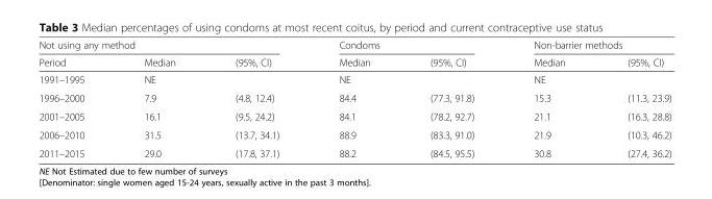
<table><thead><tr><td colspan="3">Not using any method</td><td colspan="2">Condoms</td><td colspan="2">Non-barrier methods</td></tr><tr><td>Period</td><td>Median</td><td>(95%, CI)</td><td>Median</td><td>(95%, CI)</td><td>Median</td><td>(95%, CI)</td></tr></thead><tbody><tr><td>1991–1995</td><td>NE</td><td></td><td>NE</td><td></td><td>NE</td><td></td></tr><tr><td>1996–2000</td><td>7.9</td><td>(4.8, 12.4)</td><td>84.4</td><td>(77.3, 91.8)</td><td>15.3</td><td>(11.3, 23.9)</td></tr><tr><td>2001–2005</td><td>16.1</td><td>(9.5, 24.2)</td><td>84.1</td><td>(78.2, 92.7)</td><td>21.1</td><td>(16.3, 28.8)</td></tr><tr><td>2006–2010</td><td>31.5</td><td>(13.7, 34.1)</td><td>88.9</td><td>(83.3, 91.0)</td><td>21.9</td><td>(10.3, 46.2)</td></tr><tr><td>2011–2015</td><td>29.0</td><td>(17.8, 37.1)</td><td>88.2</td><td>(84.5, 95.5)</td><td>30.8</td><td>(27.4, 36.2)</td></tr></tbody></table>